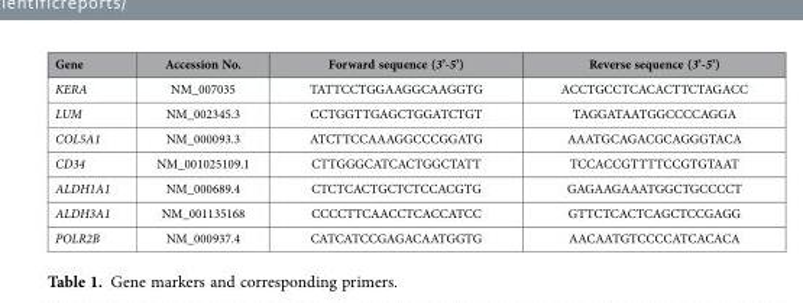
<table><thead><tr><td>Gene</td><td>Accession No.</td><td>Forward sequence (3’-5’)</td><td>Reverse sequence (3’-5’)</td></tr></thead><tbody><tr><td>KERA</td><td>NM_007035</td><td>TATTCCTGGAAGGCAAGGTG</td><td>ACCTGCCTCACACTTCTAGACC</td></tr><tr><td>LUM</td><td>NM_002345.3</td><td>CCTGGTTGAGCTGGATCTGT</td><td>TAGGATAATGGCCCCAGGA</td></tr><tr><td>COL5A1</td><td>NM_000093.3</td><td>ATCTTCCAAAGGCCCGGATG</td><td>AAATGCAGACGCAGGGTACA</td></tr><tr><td>CD34</td><td>NM_001025109.1</td><td>CTTGGGCATCACTGGCTATT</td><td>TCCACCGTTTTCCGTGTAAT</td></tr><tr><td>ALDH1A1</td><td>NM_000689.4</td><td>CTCTCACTGCTCTCCACGTG</td><td>GAGAAGAAATGGCTGCCCCT</td></tr><tr><td>ALDH3A1</td><td>NM_001135168</td><td>CCCCTTCAACCTCACCATCC</td><td>GTTCTCACTCAGCTCCGAGG</td></tr><tr><td>POLR2B</td><td>NM_000937.4</td><td>CATCATCCGAGACAATGGTG</td><td>AACAATGTCCCCATCACACA</td></tr></tbody></table>